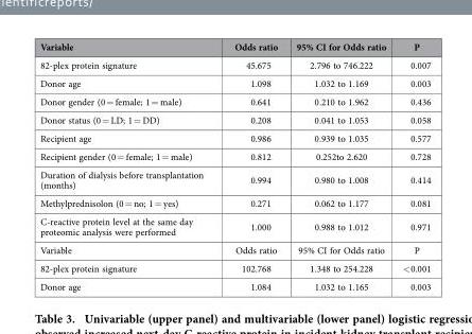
<table><thead><tr><td>Variable</td><td>Odds ratio</td><td>95% CI for Odds ratio</td><td>P</td></tr></thead><tbody><tr><td>82-plex protein signature</td><td>45.675</td><td>2.796 to 746.222</td><td>0.007</td></tr><tr><td>Donor age</td><td>1.098</td><td>1.032 to 1.169</td><td>0.003</td></tr><tr><td>Donor gender (0 = female; 1 = male)</td><td>0.641</td><td>0.210 to 1.962</td><td>0.436</td></tr><tr><td>Donor status (0 = LD; 1 = DD)</td><td>0.208</td><td>0.041 to 1.053</td><td>0.058</td></tr><tr><td>Recipient age</td><td>0.986</td><td>0.939 to 1.035</td><td>0.577</td></tr><tr><td>Recipient gender (0 = female; 1 = male)</td><td>0.812</td><td>0.252to 2.620</td><td>0.728</td></tr><tr><td>Duration of dialysis before transplantation (months)</td><td>0.994</td><td>0.980 to 1.008</td><td>0.414</td></tr><tr><td>Methylprednisolon (0 = no; 1 = yes)</td><td>0.271</td><td>0.062 to 1.177</td><td>0.081</td></tr><tr><td>C-reactive protein level at the same day proteomic analysis were performed</td><td>1.000</td><td>0.988 to 1.012</td><td>0.971</td></tr><tr><td>Variable</td><td>Odds ratio</td><td>95% CI for Odds ratio</td><td>P</td></tr><tr><td>82-plex protein signature</td><td>102.768</td><td>1.348 to 254.228</td><td>&lt; 0.001</td></tr><tr><td>Donor age</td><td>1.084</td><td>1.032 to 1.165</td><td>0.003</td></tr></tbody></table>